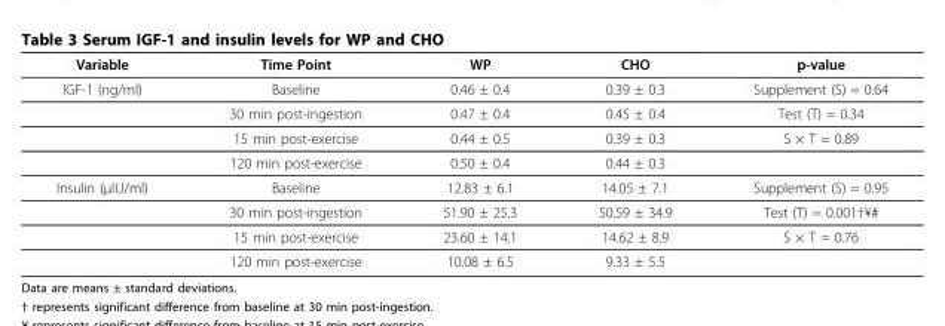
<table><thead><tr><td>Variable</td><td>Time Point</td><td>WP</td><td>CHO</td><td>p-value</td></tr></thead><tbody><tr><td rowspan="4">IGF-1 (ng/ml)</td><td>Baseline</td><td>0.46 ± 0.4</td><td>0.39 ± 0.3</td><td>Supplement (S) = 0.64</td></tr><tr><td>30 min post-ingestion</td><td>0.47 ± 0.4</td><td>0.45 ± 0.4</td><td>Test (T) = 0.34</td></tr><tr><td>15 min post-exercise</td><td>0.44 ± 0.5</td><td>0.39 ± 0.3</td><td>S × T = 0.89</td></tr><tr><td>120 min post-exercise</td><td>0.50 ± 0.4</td><td>0.44 ± 0.3</td><td></td></tr><tr><td rowspan="4">Insulin (μIU/ml)</td><td>Baseline</td><td>12.83 ± 6.1</td><td>14.05 ± 7.1</td><td>Supplement (S) = 0.95</td></tr><tr><td>30 min post-ingestion</td><td>51.90 ± 25.3</td><td>50.59 ± 34.9</td><td>Test (T) = 0.001†¥#</td></tr><tr><td>15 min post-exercise</td><td>23.60 ± 14.1</td><td>14.62 ± 8.9</td><td>S × T = 0.76</td></tr><tr><td>120 min post-exercise</td><td>10.08 ± 6.5</td><td>9.33 ± 5.5</td><td></td></tr></tbody></table>